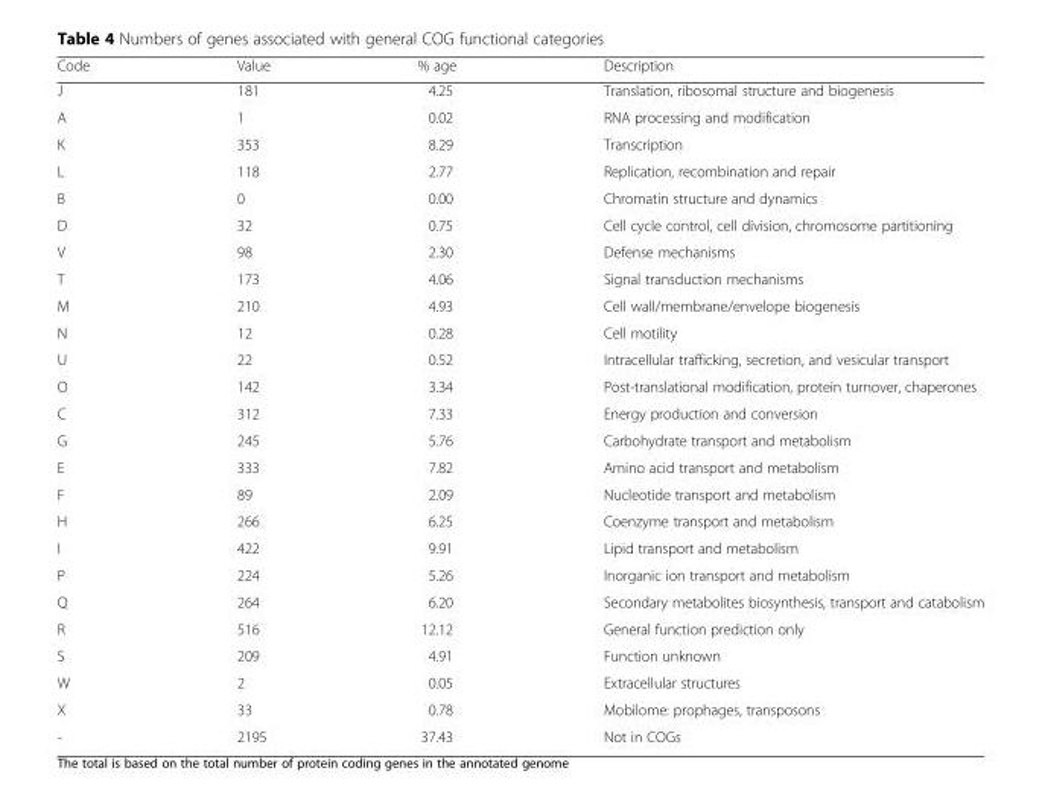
<table><thead><tr><td>Code</td><td>Value</td><td>% age</td><td>Description</td></tr></thead><tbody><tr><td>J</td><td>181</td><td>4.25</td><td>Translation, ribosomal structure and biogenesis</td></tr><tr><td>A</td><td>1</td><td>0.02</td><td>RNA processing and modification</td></tr><tr><td>K</td><td>353</td><td>8.29</td><td>Transcription</td></tr><tr><td>L</td><td>118</td><td>2.77</td><td>Replication, recombination and repair</td></tr><tr><td>B</td><td>0</td><td>0.00</td><td>Chromatin structure and dynamics</td></tr><tr><td>D</td><td>32</td><td>0.75</td><td>Cell cycle control, cell division, chromosome partitioning</td></tr><tr><td>V</td><td>98</td><td>2.30</td><td>Defense mechanisms</td></tr><tr><td>T</td><td>173</td><td>4.06</td><td>Signal transduction mechanisms</td></tr><tr><td>M</td><td>210</td><td>4.93</td><td>Cell wall/membrane/envelope biogenesis</td></tr><tr><td>N</td><td>12</td><td>0.28</td><td>Cell motility</td></tr><tr><td>U</td><td>22</td><td>0.52</td><td>Intracellular trafficking, secretion, and vesicular transport</td></tr><tr><td>O</td><td>142</td><td>3.34</td><td>Post-translational modification, protein turnover, chaperones</td></tr><tr><td>C</td><td>312</td><td>7.33</td><td>Energy production and conversion</td></tr><tr><td>G</td><td>245</td><td>5.76</td><td>Carbohydrate transport and metabolism</td></tr><tr><td>E</td><td>333</td><td>7.82</td><td>Amino acid transport and metabolism</td></tr><tr><td>F</td><td>89</td><td>2.09</td><td>Nucleotide transport and metabolism</td></tr><tr><td>H</td><td>266</td><td>6.25</td><td>Coenzyme transport and metabolism</td></tr><tr><td>I</td><td>422</td><td>9.91</td><td>Lipid transport and metabolism</td></tr><tr><td>P</td><td>224</td><td>5.26</td><td>Inorganic ion transport and metabolism</td></tr><tr><td>Q</td><td>264</td><td>6.20</td><td>Secondary metabolites biosynthesis, transport and catabolism</td></tr><tr><td>R</td><td>516</td><td>12.12</td><td>General function prediction only</td></tr><tr><td>S</td><td>209</td><td>4.91</td><td>Function unknown</td></tr><tr><td>W</td><td>2</td><td>0.05</td><td>Extracellular structures</td></tr><tr><td>X</td><td>33</td><td>0.78</td><td>Mobilome: prophages, transposons</td></tr><tr><td>-</td><td>2195</td><td>37.43</td><td>Not in COGs</td></tr></tbody></table>